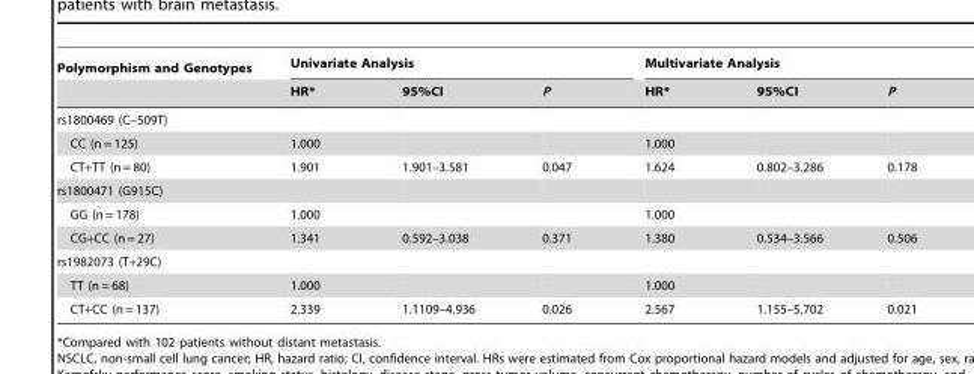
<table><thead><tr><td rowspan="2">Polymorphism and Genotypes</td><td colspan="3">Univariate Analysis</td><td colspan="3">Multivariate Analysis</td></tr><tr><td>HR*</td><td>95%CI</td><td>P</td><td>HR*</td><td>95%CI</td><td>P</td></tr></thead><tbody><tr><td colspan="7">rs1800469 (C–509T)</td></tr><tr><td>CC (n = 125)</td><td>1.000</td><td></td><td></td><td>1.000</td><td></td><td></td></tr><tr><td>CT+TT (n = 80)</td><td>1.901</td><td>1.901–3.581</td><td>0.047</td><td>1.624</td><td>0.802–3.286</td><td>0.178</td></tr><tr><td colspan="7">rs1800471 (G915C)</td></tr><tr><td>GG (n = 178)</td><td>1.000</td><td></td><td></td><td>1.000</td><td></td><td></td></tr><tr><td>CG+CC (n = 27)</td><td>1.341</td><td>0.592–3.038</td><td>0.371</td><td>1.380</td><td>0.534–3.566</td><td>0.506</td></tr><tr><td colspan="7">rs1982073 (T+29C)</td></tr><tr><td>TT (n = 68)</td><td>1.000</td><td></td><td></td><td>1.000</td><td></td><td></td></tr><tr><td>CT+CC (n = 137)</td><td>2.339</td><td>1.1109–4.936</td><td>0.026</td><td>2.567</td><td>1.155–5.702</td><td>0.021</td></tr></tbody></table>